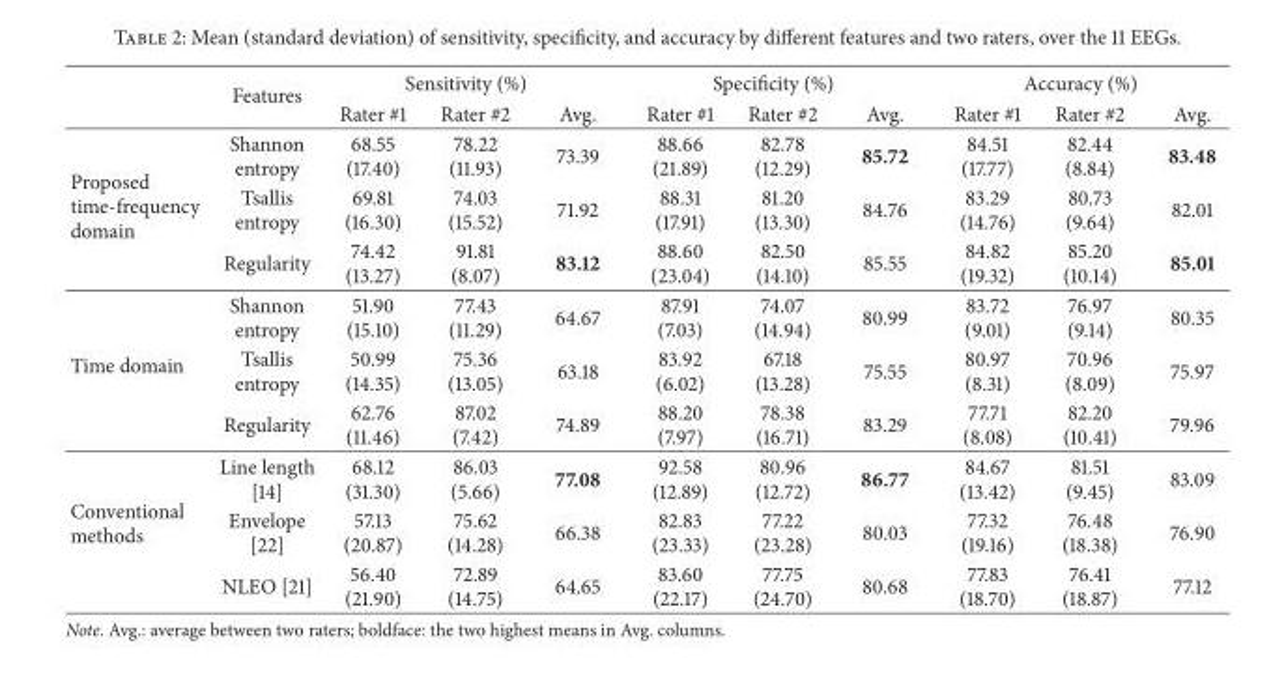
<table><thead><tr><td rowspan="2"></td><td rowspan="2">Features</td><td colspan="3">Sensitivity (%)</td><td colspan="3">Specificity (%)</td><td colspan="3">Accuracy (%)</td></tr><tr><td>Rater #1</td><td>Rater #2</td><td>Avg.</td><td>Rater #1</td><td>Rater #2</td><td>Avg.</td><td>Rater #1</td><td>Rater #2</td><td>Avg.</td></tr></thead><tbody><tr><td rowspan="3">Proposed time-frequency domain</td><td>Shannon entropy</td><td>68.55 (17.40)</td><td>78.22 (11.93)</td><td>73.39</td><td>88.66 (21.89)</td><td>82.78 (12.29)</td><td>85.72</td><td>84.51 (17.77)</td><td>82.44 (8.84)</td><td>83.48</td></tr><tr><td>Tsallis entropy</td><td>69.81 (16.30)</td><td>74.03 (15.52)</td><td>71.92</td><td>88.31 (17.91)</td><td>81.20 (13.30)</td><td>84.76</td><td>83.29 (14.76)</td><td>80.73 (9.64)</td><td>82.01</td></tr><tr><td>Regularity</td><td>74.42 (13.27)</td><td>91.81 (8.07)</td><td>83.12</td><td>88.60 (23.04)</td><td>82.50 (14.10)</td><td>85.55</td><td>84.82 (19.32)</td><td>85.20 (10.14)</td><td>85.01</td></tr><tr><td rowspan="3">Time domain</td><td>Shannon entropy</td><td>51.90 (15.10)</td><td>77.43 (11.29)</td><td>64.67</td><td>87.91 (7.03)</td><td>74.07 (14.94)</td><td>80.99</td><td>83.72 (9.01)</td><td>76.97 (9.14)</td><td>80.35</td></tr><tr><td>Tsallis entropy</td><td>50.99 (14.35)</td><td>75.36 (13.05)</td><td>63.18</td><td>83.92 (6.02)</td><td>67.18 (13.28)</td><td>75.55</td><td>80.97 (8.31)</td><td>70.96 (8.09)</td><td>75.97</td></tr><tr><td>Regularity</td><td>62.76 (11.46)</td><td>87.02 (7.42)</td><td>74.89</td><td>88.20 (7.97)</td><td>78.38 (16.71)</td><td>83.29</td><td>77.71 (8.08)</td><td>82.20 (10.41)</td><td>79.96</td></tr><tr><td rowspan="3">Conventional methods</td><td>Line length [14]</td><td>68.12 (31.30)</td><td>86.03 (5.66)</td><td>77.08</td><td>92.58 (12.89)</td><td>80.96 (12.72)</td><td>86.77</td><td>84.67 (13.42)</td><td>81.51 (9.45)</td><td>83.09</td></tr><tr><td>Envelope [22]</td><td>57.13 (20.87)</td><td>75.62 (14.28)</td><td>66.38</td><td>82.83 (23.33)</td><td>77.22 (23.28)</td><td>80.03</td><td>77.32 (19.16)</td><td>76.48 (18.38)</td><td>76.90</td></tr><tr><td>NLEO [21]</td><td>56.40 (21.90)</td><td>72.89 (14.75)</td><td>64.65</td><td>83.60 (22.17)</td><td>77.75 (24.70)</td><td>80.68</td><td>77.83 (18.70)</td><td>76.41 (18.87)</td><td>77.12</td></tr></tbody></table>